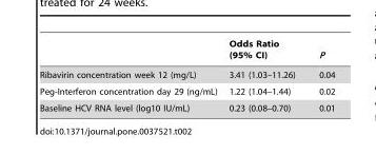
<table><thead><tr><td></td><td>Odds Ratio (95% CI)</td><td>P</td></tr></thead><tbody><tr><td>Ribavirin concentration week 12 (mg/L)</td><td>3.41 (1.03–11.26)</td><td>0.04</td></tr><tr><td>Peg-Interferon concentration day 29 (ng/mL)</td><td>1.22 (1.04–1.44)</td><td>0.02</td></tr><tr><td>Baseline HCV RNA level (log10 IU/mL)</td><td>0.23 (0.08–0.70)</td><td>0.01</td></tr></tbody></table>